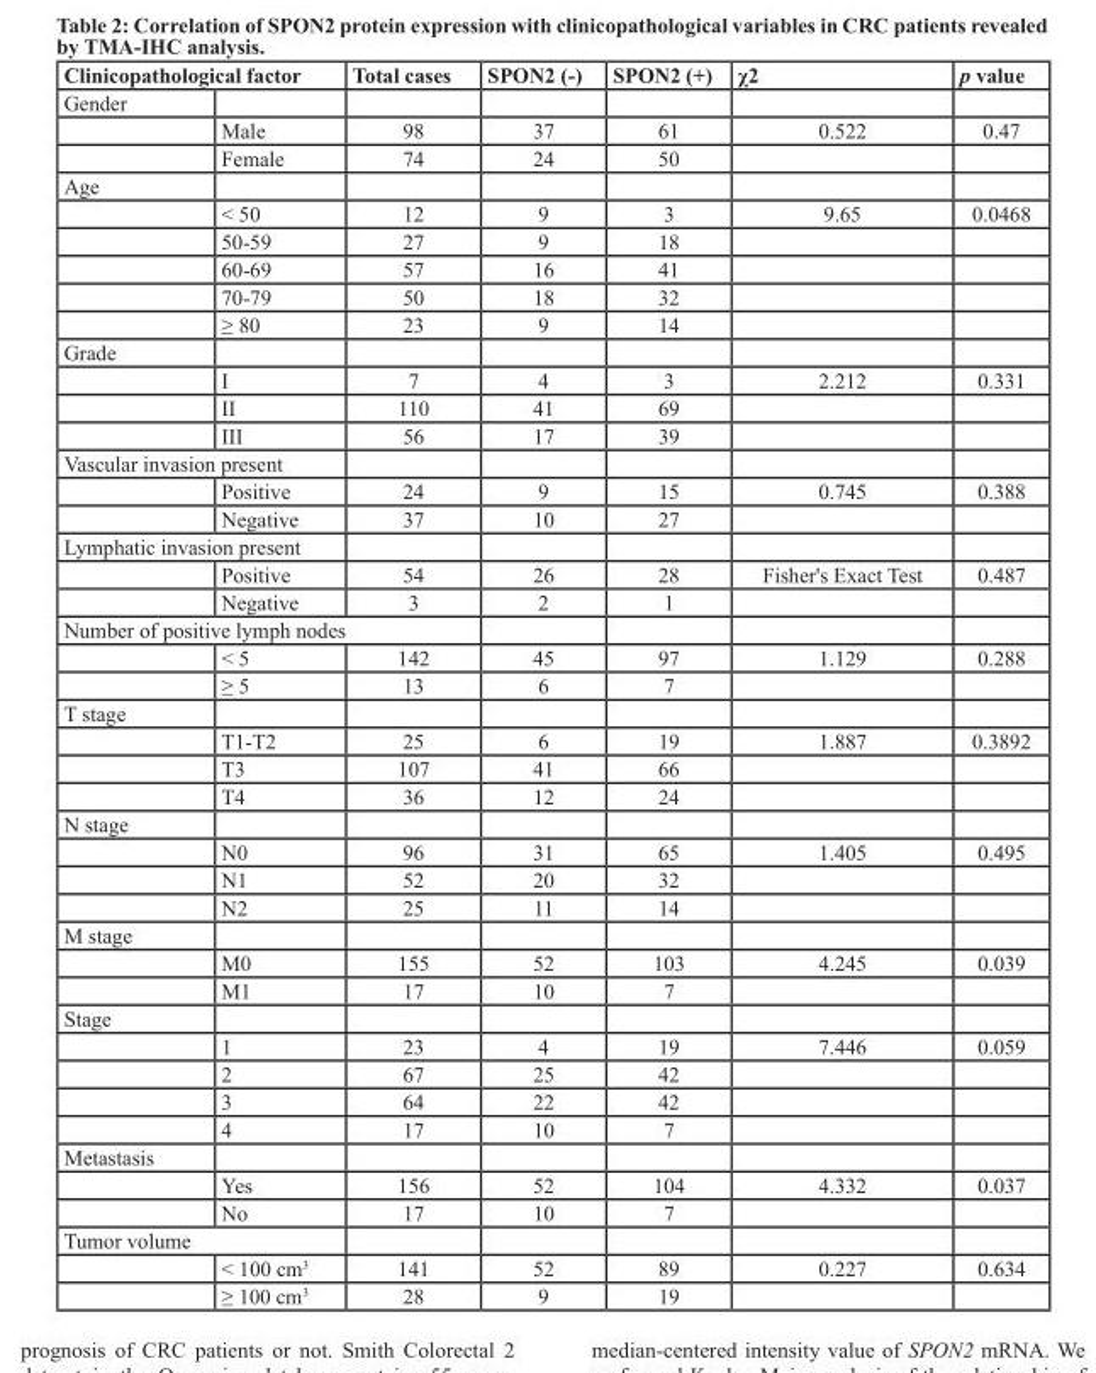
<table><thead><tr><td colspan="2">Clinicopathological factor</td><td rowspan="2">Total cases</td><td rowspan="2">SPON2 (-)</td><td rowspan="2">SPON2 (+)</td><td rowspan="2">χ2</td><td rowspan="2">p value</td></tr><tr><td>Gender</td><td></td></tr></thead><tbody><tr><td></td><td>Male</td><td>98</td><td>37</td><td>61</td><td>0.522</td><td>0.47</td></tr><tr><td></td><td>Female</td><td>74</td><td>24</td><td>50</td><td></td><td></td></tr><tr><td colspan="7">Age</td></tr><tr><td></td><td>&lt; 50</td><td>12</td><td>9</td><td>3</td><td>9.65</td><td>0.0468</td></tr><tr><td></td><td>50-59</td><td>27</td><td>9</td><td>18</td><td></td><td></td></tr><tr><td></td><td>60-69</td><td>57</td><td>16</td><td>41</td><td></td><td></td></tr><tr><td></td><td>70-79</td><td>50</td><td>18</td><td>32</td><td></td><td></td></tr><tr><td></td><td>≥ 80</td><td>23</td><td>9</td><td>14</td><td></td><td></td></tr><tr><td colspan="7">Grade</td></tr><tr><td></td><td>I</td><td>7</td><td>4</td><td>3</td><td>2.212</td><td>0.331</td></tr><tr><td></td><td>II</td><td>110</td><td>41</td><td>69</td><td></td><td></td></tr><tr><td></td><td>III</td><td>56</td><td>17</td><td>39</td><td></td><td></td></tr><tr><td colspan="7">Vascular invasion present</td></tr><tr><td></td><td>Positive</td><td>24</td><td>9</td><td>15</td><td>0.745</td><td>0.388</td></tr><tr><td></td><td>Negative</td><td>37</td><td>10</td><td>27</td><td></td><td></td></tr><tr><td colspan="7">Lymphatic invasion present</td></tr><tr><td></td><td>Positive</td><td>54</td><td>26</td><td>28</td><td>Fisher&#x27;s Exact Test</td><td>0.487</td></tr><tr><td></td><td>Negative</td><td>3</td><td>2</td><td>1</td><td></td><td></td></tr><tr><td colspan="7">Number of positive lymph nodes</td></tr><tr><td></td><td>&lt; 5</td><td>142</td><td>45</td><td>97</td><td>1.129</td><td>0.288</td></tr><tr><td></td><td>≥ 5</td><td>13</td><td>6</td><td>7</td><td></td><td></td></tr><tr><td colspan="7">T stage</td></tr><tr><td></td><td>T1-T2</td><td>25</td><td>6</td><td>19</td><td>1.887</td><td>0.3892</td></tr><tr><td></td><td>T3</td><td>107</td><td>41</td><td>66</td><td></td><td></td></tr><tr><td></td><td>T4</td><td>36</td><td>12</td><td>24</td><td></td><td></td></tr><tr><td colspan="7">N stage</td></tr><tr><td></td><td>N0</td><td>96</td><td>31</td><td>65</td><td>1.405</td><td>0.495</td></tr><tr><td></td><td>N1</td><td>52</td><td>20</td><td>32</td><td></td><td></td></tr><tr><td></td><td>N2</td><td>25</td><td>11</td><td>14</td><td></td><td></td></tr><tr><td colspan="7">M stage</td></tr><tr><td></td><td>M0</td><td>155</td><td>52</td><td>103</td><td>4.245</td><td>0.039</td></tr><tr><td></td><td>M1</td><td>17</td><td>10</td><td>7</td><td></td><td></td></tr><tr><td colspan="7">Stage</td></tr><tr><td></td><td>1</td><td>23</td><td>4</td><td>19</td><td>7.446</td><td>0.059</td></tr><tr><td></td><td>2</td><td>67</td><td>25</td><td>42</td><td></td><td></td></tr><tr><td></td><td>3</td><td>64</td><td>22</td><td>42</td><td></td><td></td></tr><tr><td></td><td>4</td><td>17</td><td>10</td><td>7</td><td></td><td></td></tr><tr><td colspan="7">Metastasis</td></tr><tr><td></td><td>Yes</td><td>156</td><td>52</td><td>104</td><td>4.332</td><td>0.037</td></tr><tr><td></td><td>No</td><td>17</td><td>10</td><td>7</td><td></td><td></td></tr><tr><td colspan="7">Tumor volume</td></tr><tr><td></td><td>&lt; 100 cm<sup>3</sup></td><td>141</td><td>52</td><td>89</td><td>0.227</td><td>0.634</td></tr><tr><td></td><td>≥ 100 cm<sup>3</sup></td><td>28</td><td>9</td><td>19</td><td></td><td></td></tr></tbody></table>